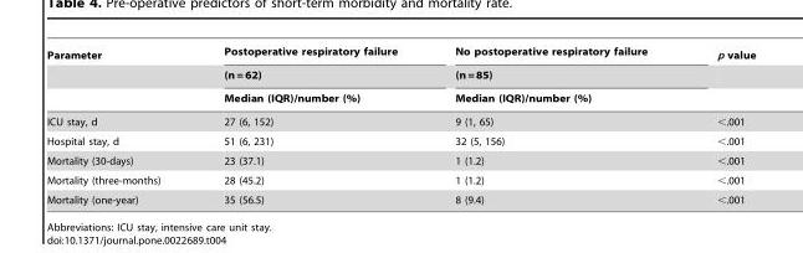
<table><thead><tr><td rowspan="3">Parameter</td><td rowspan="3">Postoperative respiratory failure (n = 62) Median (IQR)/number (%)</td><td rowspan="3">No postoperative respiratory failure (n = 85) Median (IQR)/number (%)</td><td rowspan="3">p value</td></tr><tr></tr><tr></tr></thead><tbody><tr><td>ICU stay, d</td><td>27 (6, 152)</td><td>9 (1, 65)</td><td>&lt;.001</td></tr><tr><td>Hospital stay, d</td><td>51 (6, 231)</td><td>32 (5, 156)</td><td>&lt;.001</td></tr><tr><td>Mortality (30-days)</td><td>23 (37.1)</td><td>1 (1.2)</td><td>&lt;.001</td></tr><tr><td>Mortality (three-months)</td><td>28 (45.2)</td><td>1 (1.2)</td><td>&lt;.001</td></tr><tr><td>Mortality (one-year)</td><td>35 (56.5)</td><td>8 (9.4)</td><td>&lt;.001</td></tr></tbody></table>